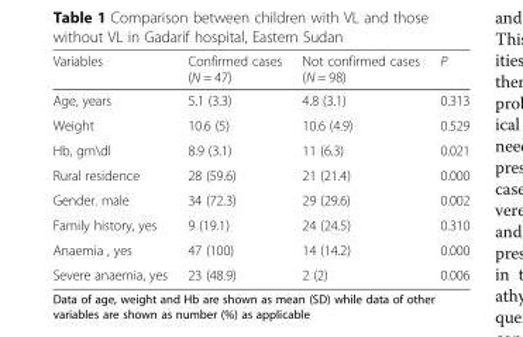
<table><thead><tr><td>Variables</td><td>Confirmed cases (N = 47)</td><td>Not confirmed cases (N = 98)</td><td>P</td></tr></thead><tbody><tr><td>Age, years</td><td>5.1 (3.3)</td><td>4.8 (3.1)</td><td>0.313</td></tr><tr><td>Weight</td><td>10.6 (5)</td><td>10.6 (4.9)</td><td>0.529</td></tr><tr><td>Hb, gm\dl</td><td>8.9 (3.1)</td><td>11 (6.3)</td><td>0.021</td></tr><tr><td>Rural residence</td><td>28 (59.6)</td><td>21 (21.4)</td><td>0.000</td></tr><tr><td>Gender. male</td><td>34 (72.3)</td><td>29 (29.6)</td><td>0.002</td></tr><tr><td>Family history, yes</td><td>9 (19.1)</td><td>24 (24.5)</td><td>0.310</td></tr><tr><td>Anaemia , yes</td><td>47 (100)</td><td>14 (14.2)</td><td>0.000</td></tr><tr><td>Severe anaemia, yes</td><td>23 (48.9)</td><td>2 (2)</td><td>0.006</td></tr></tbody></table>